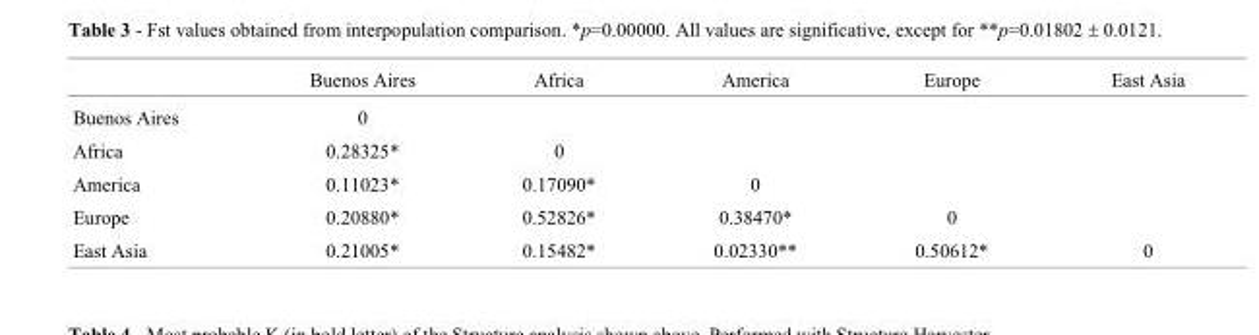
<table><thead><tr><td></td><td>Buenos Aires</td><td>Africa</td><td>America</td><td>Europe</td><td>East Asia</td></tr></thead><tbody><tr><td>Buenos Aires</td><td>0</td><td></td><td></td><td></td><td></td></tr><tr><td>Africa</td><td>0.28325*</td><td>0</td><td></td><td></td><td></td></tr><tr><td>America</td><td>0.11023*</td><td>0.17090*</td><td>0</td><td></td><td></td></tr><tr><td>Europe</td><td>0.20880*</td><td>0.52826*</td><td>0.38470*</td><td>0</td><td></td></tr><tr><td>East Asia</td><td>0.21005*</td><td>0.15482*</td><td>0.02330**</td><td>0.50612*</td><td>0</td></tr></tbody></table>